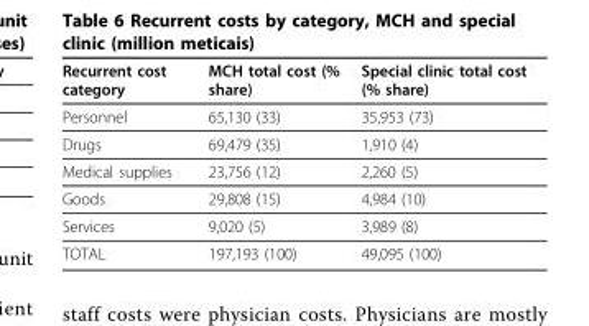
<table><thead><tr><td>Recurrent cost category</td><td>MCH total cost (% share)</td><td>Special clinic total cost (% share)</td></tr></thead><tbody><tr><td>Personnel</td><td>65,130 (33)</td><td>35,953 (73)</td></tr><tr><td>Drugs</td><td>69,479 (35)</td><td>1,910 (4)</td></tr><tr><td>Medical supplies</td><td>23,756 (12)</td><td>2,260 (5)</td></tr><tr><td>Goods</td><td>29,808 (15)</td><td>4,984 (10)</td></tr><tr><td>Services</td><td>9,020 (5)</td><td>3,989 (8)</td></tr><tr><td>TOTAL</td><td>197,193 (100)</td><td>49,095 (100)</td></tr></tbody></table>